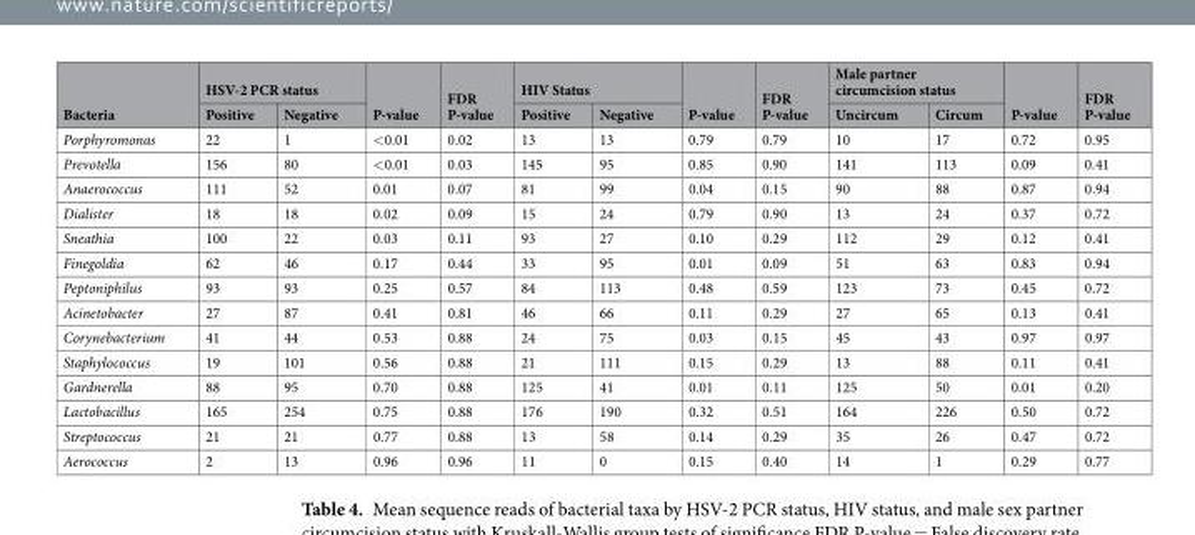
<table><thead><tr><td rowspan="2">Bacteria</td><td colspan="2">HSV-2 PCR status</td><td rowspan="2">P-value</td><td rowspan="2">FDR P-value</td><td colspan="2">HIV Status</td><td rowspan="2">P-value</td><td rowspan="2">FDR P-value</td><td colspan="2">Male partner circumcision status</td><td rowspan="2">P-value</td><td rowspan="2">FDR P-value</td></tr><tr><td>Positive</td><td>Negative</td><td>Positive</td><td>Negative</td><td>Uncircum</td><td>Circum</td></tr></thead><tbody><tr><td>Porphyromonas</td><td>22</td><td>1</td><td>&lt;0.01</td><td>0.02</td><td>13</td><td>13</td><td>0.79</td><td>0.79</td><td>10</td><td>17</td><td>0.72</td><td>0.95</td></tr><tr><td>Prevotella</td><td>156</td><td>80</td><td>&lt;0.01</td><td>0.03</td><td>145</td><td>95</td><td>0.85</td><td>0.90</td><td>141</td><td>113</td><td>0.09</td><td>0.41</td></tr><tr><td>Anaerococcus</td><td>111</td><td>52</td><td>0.01</td><td>0.07</td><td>81</td><td>99</td><td>0.04</td><td>0.15</td><td>90</td><td>88</td><td>0.87</td><td>0.94</td></tr><tr><td>Dialister</td><td>18</td><td>18</td><td>0.02</td><td>0.09</td><td>15</td><td>24</td><td>0.79</td><td>0.90</td><td>13</td><td>24</td><td>0.37</td><td>0.72</td></tr><tr><td>Sneathia</td><td>100</td><td>22</td><td>0.03</td><td>0.11</td><td>93</td><td>27</td><td>0.10</td><td>0.29</td><td>112</td><td>29</td><td>0.12</td><td>0.41</td></tr><tr><td>Finegoldia</td><td>62</td><td>46</td><td>0.17</td><td>0.44</td><td>33</td><td>95</td><td>0.01</td><td>0.09</td><td>51</td><td>63</td><td>0.83</td><td>0.94</td></tr><tr><td>Peptoniphilus</td><td>93</td><td>93</td><td>0.25</td><td>0.57</td><td>84</td><td>113</td><td>0.48</td><td>0.59</td><td>123</td><td>73</td><td>0.45</td><td>0.72</td></tr><tr><td>Acinetobacter</td><td>27</td><td>87</td><td>0.41</td><td>0.81</td><td>46</td><td>66</td><td>0.11</td><td>0.29</td><td>27</td><td>65</td><td>0.13</td><td>0.41</td></tr><tr><td>Corynebacterium</td><td>41</td><td>44</td><td>0.53</td><td>0.88</td><td>24</td><td>75</td><td>0.03</td><td>0.15</td><td>45</td><td>43</td><td>0.97</td><td>0.97</td></tr><tr><td>Staphylococcus</td><td>19</td><td>101</td><td>0.56</td><td>0.88</td><td>21</td><td>111</td><td>0.15</td><td>0.29</td><td>13</td><td>88</td><td>0.11</td><td>0.41</td></tr><tr><td>Gardnerella</td><td>88</td><td>95</td><td>0.70</td><td>0.88</td><td>125</td><td>41</td><td>0.01</td><td>0.11</td><td>125</td><td>50</td><td>0.01</td><td>0.20</td></tr><tr><td>Lactobacillus</td><td>165</td><td>254</td><td>0.75</td><td>0.88</td><td>176</td><td>190</td><td>0.32</td><td>0.51</td><td>164</td><td>226</td><td>0.50</td><td>0.72</td></tr><tr><td>Streptococcus</td><td>21</td><td>21</td><td>0.77</td><td>0.88</td><td>13</td><td>58</td><td>0.14</td><td>0.29</td><td>35</td><td>26</td><td>0.47</td><td>0.72</td></tr><tr><td>Aerococcus</td><td>2</td><td>13</td><td>0.96</td><td>0.96</td><td>11</td><td>0</td><td>0.15</td><td>0.40</td><td>14</td><td>1</td><td>0.29</td><td>0.77</td></tr></tbody></table>